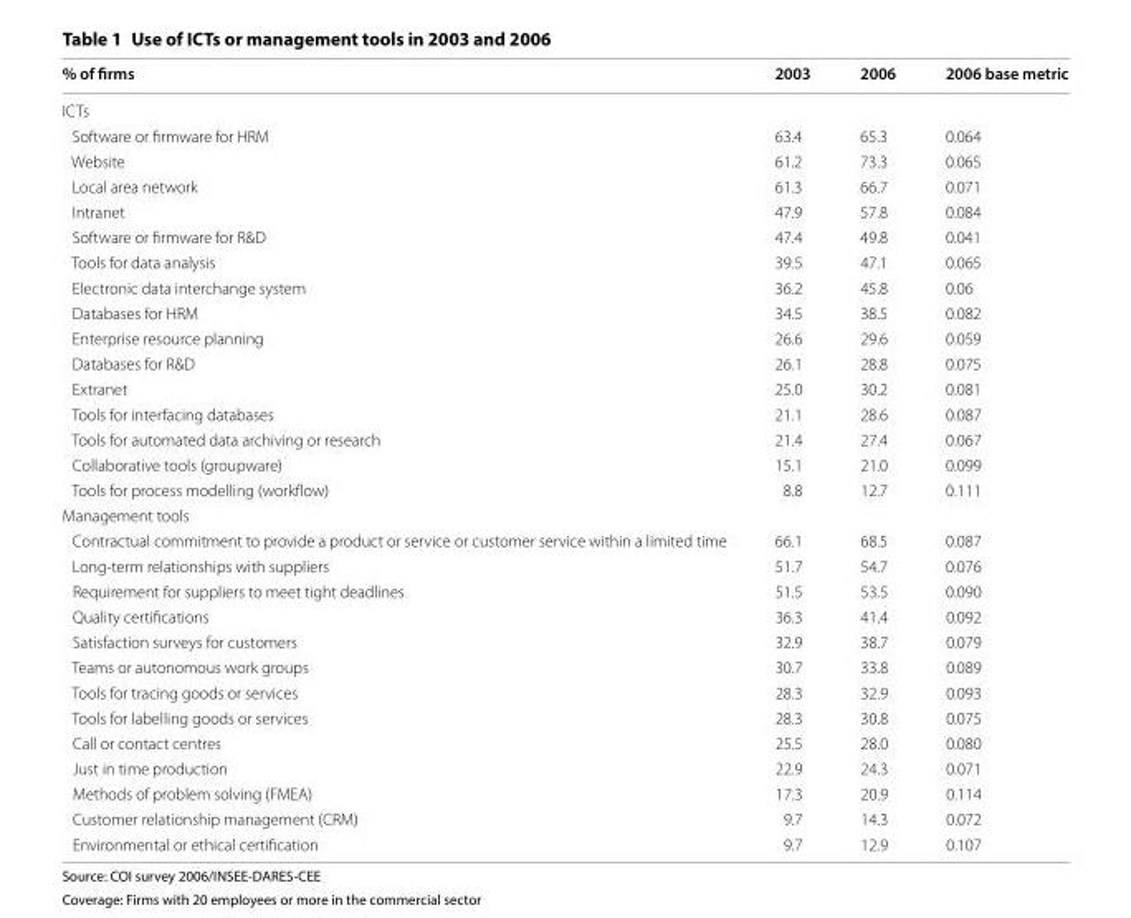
<table><thead><tr><td>% of firms</td><td>2003</td><td>2006</td><td>2006 base metric</td></tr></thead><tbody><tr><td colspan="4">ICTs</td></tr><tr><td>Software or firmware for HRM</td><td>63.4</td><td>65.3</td><td>0.064</td></tr><tr><td>Website</td><td>61.2</td><td>73.3</td><td>0.065</td></tr><tr><td>Local area network</td><td>61.3</td><td>66.7</td><td>0.071</td></tr><tr><td>Intranet</td><td>47.9</td><td>57.8</td><td>0.084</td></tr><tr><td>Software or firmware for R&amp;D</td><td>47.4</td><td>49.8</td><td>0.041</td></tr><tr><td>Tools for data analysis</td><td>39.5</td><td>47.1</td><td>0.065</td></tr><tr><td>Electronic data interchange system</td><td>36.2</td><td>45.8</td><td>0.06</td></tr><tr><td>Databases for HRM</td><td>34.5</td><td>38.5</td><td>0.082</td></tr><tr><td>Enterprise resource planning</td><td>26.6</td><td>29.6</td><td>0.059</td></tr><tr><td>Databases for R&amp;D</td><td>26.1</td><td>28.8</td><td>0.075</td></tr><tr><td>Extranet</td><td>25.0</td><td>30.2</td><td>0.081</td></tr><tr><td>Tools for interfacing databases</td><td>21.1</td><td>28.6</td><td>0.087</td></tr><tr><td>Tools for automated data archiving or research</td><td>21.4</td><td>27.4</td><td>0.067</td></tr><tr><td>Collaborative tools (groupware)</td><td>15.1</td><td>21.0</td><td>0.099</td></tr><tr><td>Tools for process modelling (workflow)</td><td>8.8</td><td>12.7</td><td>0.111</td></tr><tr><td colspan="4">Management tools</td></tr><tr><td>Contractual commitment to provide a product or service or customer service within a limited time</td><td>66.1</td><td>68.5</td><td>0.087</td></tr><tr><td>Long‑term relationships with suppliers</td><td>51.7</td><td>54.7</td><td>0.076</td></tr><tr><td>Requirement for suppliers to meet tight deadlines</td><td>51.5</td><td>53.5</td><td>0.090</td></tr><tr><td>Quality certifications</td><td>36.3</td><td>41.4</td><td>0.092</td></tr><tr><td>Satisfaction surveys for customers</td><td>32.9</td><td>38.7</td><td>0.079</td></tr><tr><td>Teams or autonomous work groups</td><td>30.7</td><td>33.8</td><td>0.089</td></tr><tr><td>Tools for tracing goods or services</td><td>28.3</td><td>32.9</td><td>0.093</td></tr><tr><td>Tools for labelling goods or services</td><td>28.3</td><td>30.8</td><td>0.075</td></tr><tr><td>Call or contact centres</td><td>25.5</td><td>28.0</td><td>0.080</td></tr><tr><td>Just in time production</td><td>22.9</td><td>24.3</td><td>0.071</td></tr><tr><td>Methods of problem solving (FMEA)</td><td>17.3</td><td>20.9</td><td>0.114</td></tr><tr><td>Customer relationship management (CRM)</td><td>9.7</td><td>14.3</td><td>0.072</td></tr><tr><td>Environmental or ethical certification</td><td>9.7</td><td>12.9</td><td>0.107</td></tr></tbody></table>